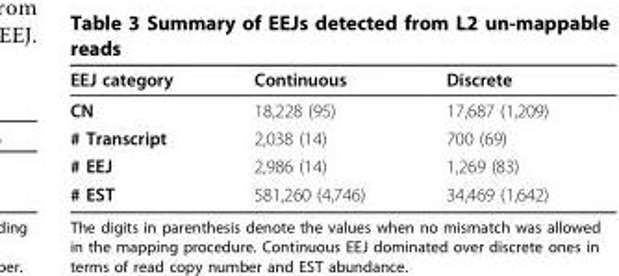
<table><thead><tr><td>EEJ category</td><td>Continuous</td><td>Discrete</td></tr></thead><tbody><tr><td>CN</td><td>18,228 (95)</td><td>17,687 (1,209)</td></tr><tr><td># Transcript</td><td>2,038 (14)</td><td>700 (69)</td></tr><tr><td># EEJ</td><td>2,986 (14)</td><td>1,269 (83)</td></tr><tr><td># EST</td><td>581,260 (4,746)</td><td>34,469 (1,642)</td></tr></tbody></table>